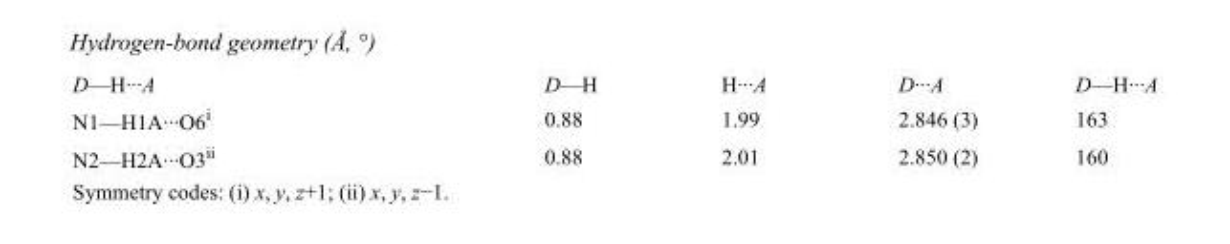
<table><tbody><tr><td>D—H···A</td><td>D—H</td><td>H···A</td><td>D···A</td><td>D—H···A</td></tr><tr><td>N1—H1A···O6<sup>i</sup></td><td>0.88</td><td>1.99</td><td>2.846 (3)</td><td>163</td></tr><tr><td>N2—H2A···O3<sup>ii</sup></td><td>0.88</td><td>2.01</td><td>2.850 (2)</td><td>160</td></tr></tbody></table>